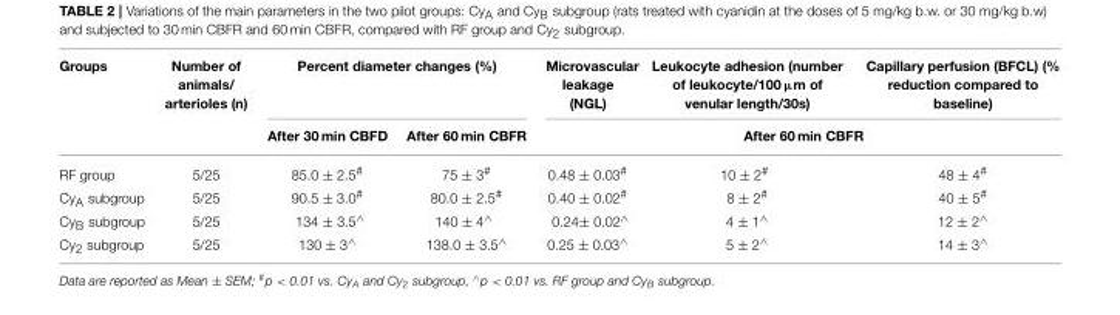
<table><thead><tr><td rowspan="2">Groups</td><td rowspan="2">Number of animals/ arterioles (n)</td><td colspan="2">Percent diameter changes (%)</td><td>Microvascular leakage (NGL)</td><td>Leukocyte adhesion (number of leukocyte/100 µm of venular length/30s)</td><td>Capillary perfusion (BFCL) (% reduction compared to baseline)</td></tr><tr><td>After 30 min CBFD</td><td>After 60 min CBFR</td><td colspan="3">After 60 min CBFR</td></tr></thead><tbody><tr><td>RF group</td><td>5/25</td><td>85.0 ± 2.5<sup>#</sup></td><td>75 ± 3<sup>#</sup></td><td>0.48 ± 0.03<sup>#</sup></td><td>10 ± 2<sup>#</sup></td><td>48 ± 4<sup>#</sup></td></tr><tr><td>Cy<sub>A</sub> subgroup</td><td>5/25</td><td>90.5 ± 3.0<sup>#</sup></td><td>80.0 ± 2.5<sup>#</sup></td><td>0.40 ± 0.02<sup>#</sup></td><td>8 ± 2<sup>#</sup></td><td>40 ± 5<sup>#</sup></td></tr><tr><td>Cy<sub>B</sub> subgroup</td><td>5/25</td><td>134 ± 3.5<sup>∧</sup></td><td>140 ± 4<sup>∧</sup></td><td>0.24± 0.02<sup>∧</sup></td><td>4 ± 1<sup>∧</sup></td><td>12 ± 2<sup>∧</sup></td></tr><tr><td>Cy<sub>2</sub> subgroup</td><td>5/25</td><td>130 ± 3<sup>∧</sup></td><td>138.0 ± 3.5<sup>∧</sup></td><td>0.25 ± 0.03<sup>∧</sup></td><td>5 ± 2<sup>∧</sup></td><td>14 ± 3<sup>∧</sup></td></tr></tbody></table>